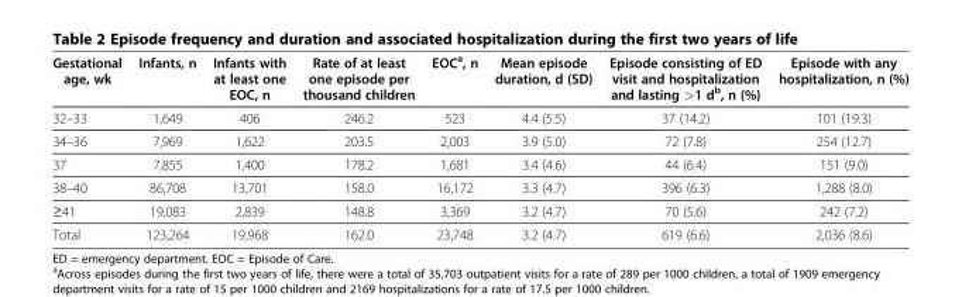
<table><thead><tr><td>Gestational age, wk</td><td>Infants, n</td><td>Infants with at least one EOC, n</td><td>Rate of at least one episode per thousand children</td><td>EOC<sup>a</sup>, n</td><td>Mean episode duration, d (SD)</td><td>Episode consisting of ED visit and hospitalization and lasting &gt;1 d<sup>b</sup>, n (%)</td><td>Episode with any hospitalization, n (%)</td></tr></thead><tbody><tr><td>32–33</td><td>1,649</td><td>406</td><td>246.2</td><td>523</td><td>4.4 (5.5)</td><td>37 (14.2)</td><td>101 (19.3)</td></tr><tr><td>34–36</td><td>7,969</td><td>1,622</td><td>203.5</td><td>2,003</td><td>3.9 (5.0)</td><td>72 (7.8)</td><td>254 (12.7)</td></tr><tr><td>37</td><td>7,855</td><td>1,400</td><td>178.2</td><td>1,681</td><td>3.4 (4.6)</td><td>44 (6.4)</td><td>151 (9.0)</td></tr><tr><td>38–40</td><td>86,708</td><td>13,701</td><td>158.0</td><td>16,172</td><td>3.3 (4.7)</td><td>396 (6.3)</td><td>1,288 (8.0)</td></tr><tr><td>≥41</td><td>19,083</td><td>2,839</td><td>148.8</td><td>3,369</td><td>3.2 (4.7)</td><td>70 (5.6)</td><td>242 (7.2)</td></tr><tr><td>Total</td><td>123,264</td><td>19,968</td><td>162.0</td><td>23,748</td><td>3.2 (4.7)</td><td>619 (6.6)</td><td>2,036 (8.6)</td></tr></tbody></table>